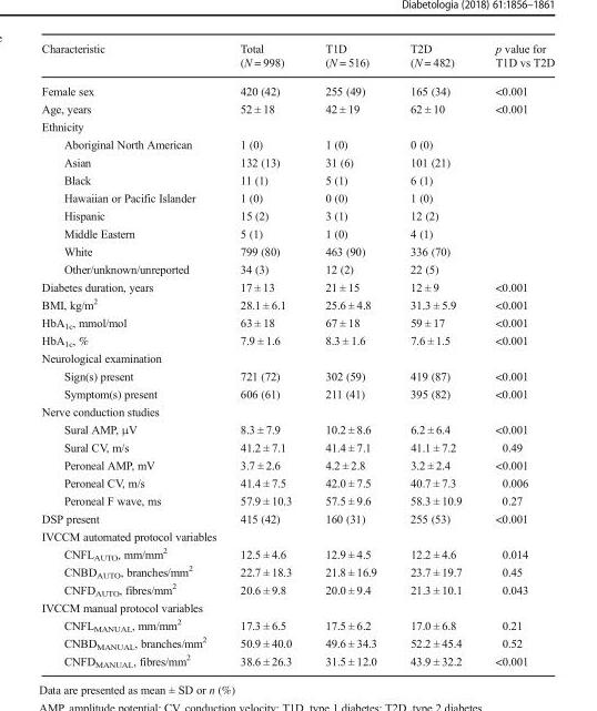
<table><thead><tr><td>Characteristic</td><td>Total (N = 998)</td><td>T1D (N = 516)</td><td>T2D (N = 482)</td><td>p value for T1D vs T2D</td></tr></thead><tbody><tr><td>Female sex</td><td>420 (42)</td><td>255 (49)</td><td>165 (34)</td><td>&lt;0.001</td></tr><tr><td>Age, years</td><td>52 ± 18</td><td>42 ± 19</td><td>62 ± 10</td><td>&lt;0.001</td></tr><tr><td colspan="5">Ethnicity</td></tr><tr><td>Aboriginal North American</td><td>1 (0)</td><td>1 (0)</td><td>0 (0)</td><td></td></tr><tr><td>Asian</td><td>132 (13)</td><td>31 (6)</td><td>101 (21)</td><td></td></tr><tr><td>Black</td><td>11 (1)</td><td>5 (1)</td><td>6 (1)</td><td></td></tr><tr><td>Hawaiian or Pacific Islander</td><td>1 (0)</td><td>0 (0)</td><td>1 (0)</td><td></td></tr><tr><td>Hispanic</td><td>15 (2)</td><td>3 (1)</td><td>12 (2)</td><td></td></tr><tr><td>Middle Eastern</td><td>5 (1)</td><td>1 (0)</td><td>4 (1)</td><td></td></tr><tr><td>White</td><td>799 (80)</td><td>463 (90)</td><td>336 (70)</td><td></td></tr><tr><td>Other/unknown/unreported</td><td>34 (3)</td><td>12 (2)</td><td>22 (5)</td><td></td></tr><tr><td>Diabetes duration, years</td><td>17 ± 13</td><td>21 ± 15</td><td>12 ± 9</td><td>&lt;0.001</td></tr><tr><td>BMI, kg/m<sup>2</sup></td><td>28.1 ± 6.1</td><td>25.6 ± 4.8</td><td>31.3 ± 5.9</td><td>&lt;0.001</td></tr><tr><td>HbA<sub>1c</sub>, mmol/mol</td><td>63 ± 18</td><td>67 ± 18</td><td>59 ± 17</td><td>&lt;0.001</td></tr><tr><td>HbA<sub>1c</sub>, %</td><td>7.9 ± 1.6</td><td>8.3 ± 1.6</td><td>7.6 ± 1.5</td><td>&lt;0.001</td></tr><tr><td colspan="5">Neurological examination</td></tr><tr><td>Sign(s) present</td><td>721 (72)</td><td>302 (59)</td><td>419 (87)</td><td>&lt;0.001</td></tr><tr><td>Symptom(s) present</td><td>606 (61)</td><td>211 (41)</td><td>395 (82)</td><td>&lt;0.001</td></tr><tr><td colspan="5">Nerve conduction studies</td></tr><tr><td>Sural AMP, μV</td><td>8.3 ± 7.9</td><td>10.2 ± 8.6</td><td>6.2 ± 6.4</td><td>&lt;0.001</td></tr><tr><td>Sural CV, m/s</td><td>41.2 ± 7.1</td><td>41.4 ± 7.1</td><td>41.1 ± 7.2</td><td>0.49</td></tr><tr><td>Peroneal AMP, mV</td><td>3.7 ± 2.6</td><td>4.2 ± 2.8</td><td>3.2 ± 2.4</td><td>&lt;0.001</td></tr><tr><td>Peroneal CV, m/s</td><td>41.4 ± 7.5</td><td>42.0 ± 7.5</td><td>40.7 ± 7.3</td><td>0.006</td></tr><tr><td>Peroneal F wave, ms</td><td>57.9 ± 10.3</td><td>57.5 ± 9.6</td><td>58.3 ± 10.9</td><td>0.27</td></tr><tr><td>DSP present</td><td>415 (42)</td><td>160 (31)</td><td>255 (53)</td><td>&lt;0.001</td></tr><tr><td colspan="5">IVCCM automated protocol variables</td></tr><tr><td>CNFL<sub>AUTO</sub>, mm/mm<sup>2</sup></td><td>12.5 ± 4.6</td><td>12.9 ± 4.5</td><td>12.2 ± 4.6</td><td>0.014</td></tr><tr><td>CNBD<sub>AUTO</sub>, branches/mm<sup>2</sup></td><td>22.7 ± 18.3</td><td>21.8 ± 16.9</td><td>23.7 ± 19.7</td><td>0.45</td></tr><tr><td>CNFD<sub>AUTO</sub>, fibres/mm<sup>2</sup></td><td>20.6 ± 9.8</td><td>20.0 ± 9.4</td><td>21.3 ± 10.1</td><td>0.043</td></tr><tr><td colspan="5">IVCCM manual protocol variables</td></tr><tr><td>CNFL<sub>MANUAL</sub>, mm/mm<sup>2</sup></td><td>17.3 ± 6.5</td><td>17.5 ± 6.2</td><td>17.0 ± 6.8</td><td>0.21</td></tr><tr><td>CNBD<sub>MANUAL</sub>, branches/mm<sup>2</sup></td><td>50.9 ± 40.0</td><td>49.6 ± 34.3</td><td>52.2 ± 45.4</td><td>0.52</td></tr><tr><td>CNFD<sub>MANUAL</sub>, fibres/mm<sup>2</sup></td><td>38.6 ± 26.3</td><td>31.5 ± 12.0</td><td>43.9 ± 32.2</td><td>&lt;0.001</td></tr></tbody></table>